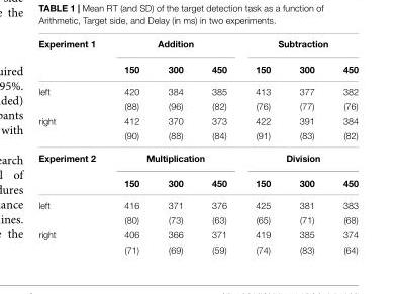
<table><thead><tr><td rowspan="2">Experiment 1</td><td colspan="3">Addition</td><td colspan="3">Subtraction</td></tr><tr><td>150</td><td>300</td><td>450</td><td>150</td><td>300</td><td>450</td></tr></thead><tbody><tr><td rowspan="2">left</td><td>420</td><td>384</td><td>385</td><td>413</td><td>377</td><td>382</td></tr><tr><td>(88)</td><td>(96)</td><td>(82)</td><td>(76)</td><td>(77)</td><td>(76)</td></tr><tr><td rowspan="2">right</td><td>412</td><td>370</td><td>373</td><td>422</td><td>391</td><td>384</td></tr><tr><td>(90)</td><td>(88)</td><td>(84)</td><td>(91)</td><td>(83)</td><td>(82)</td></tr><tr><td rowspan="2">Experiment 2</td><td colspan="3">Multiplication</td><td colspan="3">Division</td></tr><tr><td>150</td><td>300</td><td>450</td><td>150</td><td>300</td><td>450</td></tr><tr><td rowspan="2">left</td><td>416</td><td>371</td><td>376</td><td>425</td><td>381</td><td>383</td></tr><tr><td>(80)</td><td>(73)</td><td>(63)</td><td>(65)</td><td>(71)</td><td>(68)</td></tr><tr><td rowspan="2">right</td><td>406</td><td>366</td><td>371</td><td>419</td><td>385</td><td>374</td></tr><tr><td>(71)</td><td>(69)</td><td>(59)</td><td>(74)</td><td>(83)</td><td>(64)</td></tr></tbody></table>